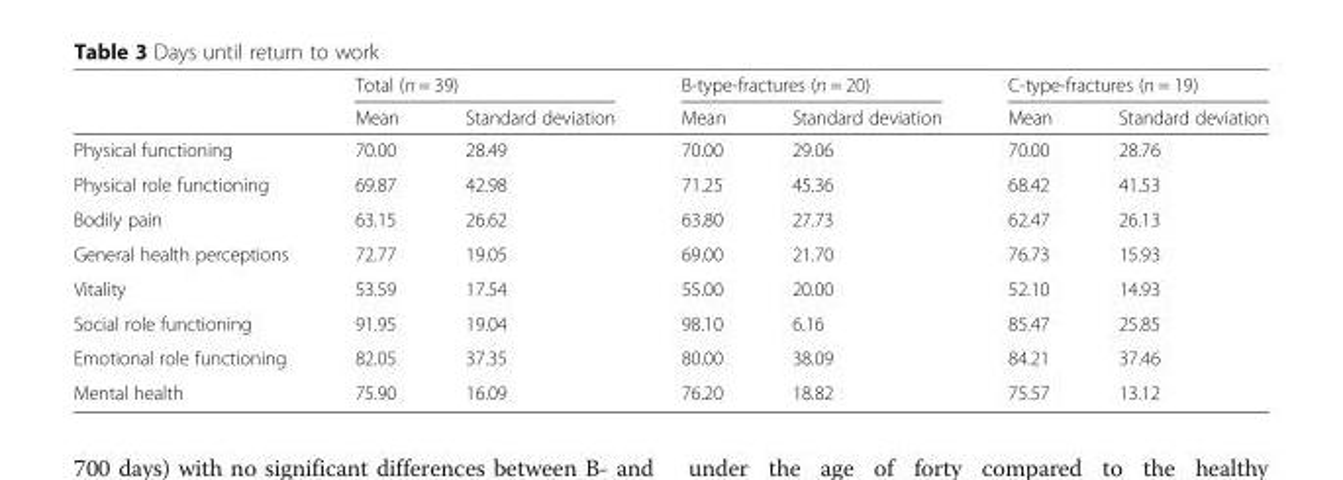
<table><thead><tr><td rowspan="2"></td><td colspan="2">Total (n = 39)</td><td colspan="2">B-type-fractures (n = 20)</td><td colspan="2">C-type-fractures (n = 19)</td></tr><tr><td>Mean</td><td>Standard deviation</td><td>Mean</td><td>Standard deviation</td><td>Mean</td><td>Standard deviation</td></tr></thead><tbody><tr><td>Physical functioning</td><td>70.00</td><td>28.49</td><td>70.00</td><td>29.06</td><td>70.00</td><td>28.76</td></tr><tr><td>Physical role functioning</td><td>69.87</td><td>42.98</td><td>71.25</td><td>45.36</td><td>68.42</td><td>41.53</td></tr><tr><td>Bodily pain</td><td>63.15</td><td>26.62</td><td>63.80</td><td>27.73</td><td>62.47</td><td>26.13</td></tr><tr><td>General health perceptions</td><td>72.77</td><td>19.05</td><td>69.00</td><td>21.70</td><td>76.73</td><td>15.93</td></tr><tr><td>Vitality</td><td>53.59</td><td>17.54</td><td>55.00</td><td>20.00</td><td>52.10</td><td>14.93</td></tr><tr><td>Social role functioning</td><td>91.95</td><td>19.04</td><td>98.10</td><td>6.16</td><td>85.47</td><td>25.85</td></tr><tr><td>Emotional role functioning</td><td>82.05</td><td>37.35</td><td>80.00</td><td>38.09</td><td>84.21</td><td>37.46</td></tr><tr><td>Mental health</td><td>75.90</td><td>16.09</td><td>76.20</td><td>18.82</td><td>75.57</td><td>13.12</td></tr></tbody></table>